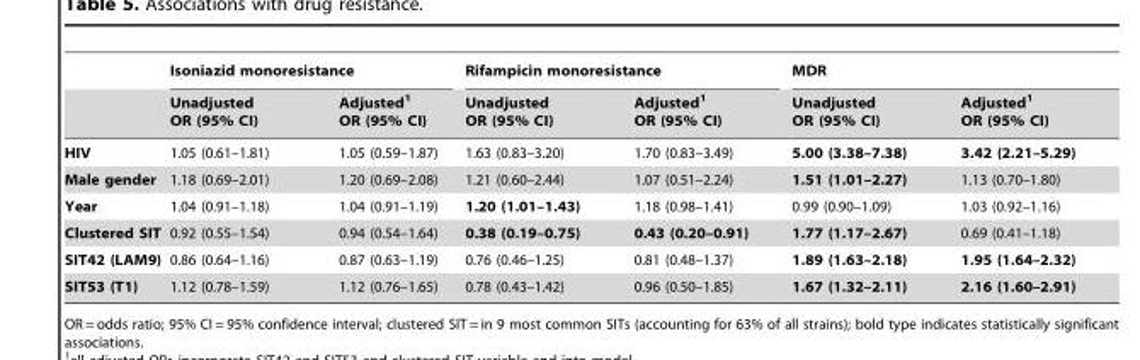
<table><thead><tr><td rowspan="2"></td><td colspan="2">Isoniazid monoresistance</td><td colspan="2">Rifampicin monoresistance</td><td colspan="2">MDR</td></tr><tr><td>Unadjusted OR (95% CI)</td><td>Adjusted<sup>1</sup> OR (95% CI)</td><td>Unadjusted OR (95% CI)</td><td>Adjusted<sup>1</sup> OR (95% CI)</td><td>Unadjusted OR (95% CI)</td><td>Adjusted<sup>1</sup> OR (95% CI)</td></tr></thead><tbody><tr><td>HIV</td><td>1.05 (0.61–1.81)</td><td>1.05 (0.59–1.87)</td><td>1.63 (0.83–3.20)</td><td>1.70 (0.83–3.49)</td><td>5.00 (3.38–7.38)</td><td>3.42 (2.21–5.29)</td></tr><tr><td>Male gender</td><td>1.18 (0.69–2.01)</td><td>1.20 (0.69–2.08)</td><td>1.21 (0.60–2.44)</td><td>1.07 (0.51–2.24)</td><td>1.51 (1.01–2.27)</td><td>1.13 (0.70–1.80)</td></tr><tr><td>Year</td><td>1.04 (0.91–1.18)</td><td>1.04 (0.91–1.19)</td><td>1.20 (1.01–1.43)</td><td>1.18 (0.98–1.41)</td><td>0.99 (0.90–1.09)</td><td>1.03 (0.92–1.16)</td></tr><tr><td>Clustered SIT</td><td>0.92 (0.55–1.54)</td><td>0.94 (0.54–1.64)</td><td>0.38 (0.19–0.75)</td><td>0.43 (0.20–0.91)</td><td>1.77 (1.17–2.67)</td><td>0.69 (0.41–1.18)</td></tr><tr><td>SIT42 (LAM9)</td><td>0.86 (0.64–1.16)</td><td>0.87 (0.63–1.19)</td><td>0.76 (0.46–1.25)</td><td>0.81 (0.48–1.37)</td><td>1.89 (1.63–2.18)</td><td>1.95 (1.64–2.32)</td></tr><tr><td>SIT53 (T1)</td><td>1.12 (0.78–1.59)</td><td>1.12 (0.76–1.65)</td><td>0.78 (0.43–1.42)</td><td>0.96 (0.50–1.85)</td><td>1.67 (1.32–2.11)</td><td>2.16 (1.60–2.91)</td></tr></tbody></table>